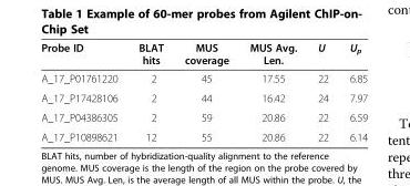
<table><thead><tr><td>Probe ID</td><td>BLAT hits</td><td>MUS coverage</td><td>MUS Avg. Len.</td><td>U</td><td>U<sub>p</sub></td></tr></thead><tbody><tr><td>A_17_P01761220</td><td>2</td><td>45</td><td>17.55</td><td>22</td><td>6.85</td></tr><tr><td>A_17_P17428106</td><td>2</td><td>44</td><td>16.42</td><td>24</td><td>7.97</td></tr><tr><td>A_17_P04386305</td><td>2</td><td>59</td><td>20.86</td><td>22</td><td>6.59</td></tr><tr><td>A_17_P10898621</td><td>12</td><td>55</td><td>20.86</td><td>22</td><td>6.14</td></tr></tbody></table>